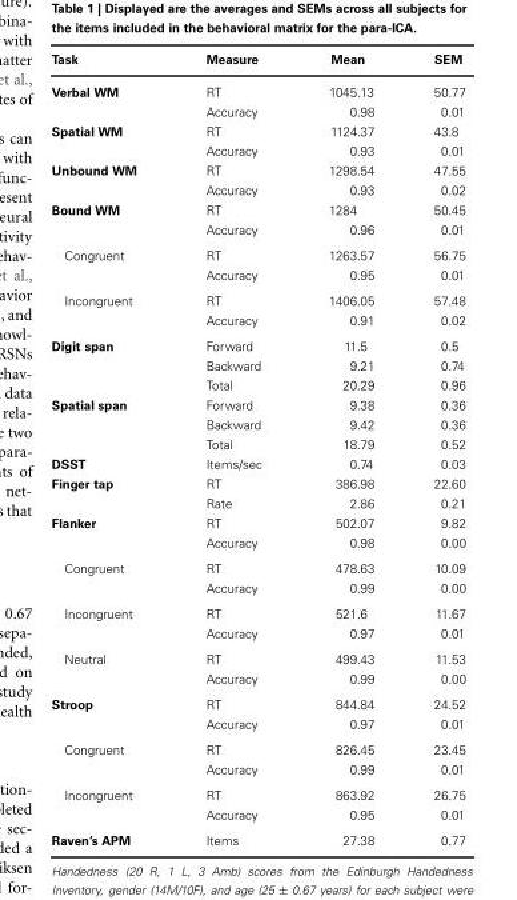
<table><thead><tr><td>Task</td><td>Measure</td><td>Mean</td><td>SEM</td></tr></thead><tbody><tr><td rowspan="2">Verbal WM</td><td>RT</td><td>1045.13</td><td>50.77</td></tr><tr><td>Accuracy</td><td>0.98</td><td>0.01</td></tr><tr><td rowspan="2">Spatial WM</td><td>RT</td><td>1124.37</td><td>43.8</td></tr><tr><td>Accuracy</td><td>0.93</td><td>0.01</td></tr><tr><td rowspan="2">Unbound WM</td><td>RT</td><td>1298.54</td><td>47.55</td></tr><tr><td>Accuracy</td><td>0.93</td><td>0.02</td></tr><tr><td rowspan="2">Bound WM</td><td>RT</td><td>1284</td><td>50.45</td></tr><tr><td>Accuracy</td><td>0.96</td><td>0.01</td></tr><tr><td rowspan="2">Congruent</td><td>RT</td><td>1263.57</td><td>56.75</td></tr><tr><td>Accuracy</td><td>0.95</td><td>0.01</td></tr><tr><td rowspan="2">Incongruent</td><td>RT</td><td>1406.05</td><td>57.48</td></tr><tr><td>Accuracy</td><td>0.91</td><td>0.02</td></tr><tr><td rowspan="3">Digit span</td><td>Forward</td><td>11.5</td><td>0.5</td></tr><tr><td>Backward</td><td>9.21</td><td>0.74</td></tr><tr><td>Total</td><td>20.29</td><td>0.96</td></tr><tr><td rowspan="3">Spatial span</td><td>Forward</td><td>9.38</td><td>0.36</td></tr><tr><td>Backward</td><td>9.42</td><td>0.36</td></tr><tr><td>Total</td><td>18.79</td><td>0.52</td></tr><tr><td>DSST</td><td>Items/sec</td><td>0.74</td><td>0.03</td></tr><tr><td rowspan="2">Finger tap</td><td>RT</td><td>386.98</td><td>22.60</td></tr><tr><td>Rate</td><td>2.86</td><td>0.21</td></tr><tr><td rowspan="2">Flanker</td><td>RT</td><td>502.07</td><td>9.82</td></tr><tr><td>Accuracy</td><td>0.98</td><td>0.00</td></tr><tr><td rowspan="2">Congruent</td><td>RT</td><td>478.63</td><td>10.09</td></tr><tr><td>Accuracy</td><td>0.99</td><td>0.00</td></tr><tr><td rowspan="2">Incongruent</td><td>RT</td><td>521.6</td><td>11.67</td></tr><tr><td>Accuracy</td><td>0.97</td><td>0.01</td></tr><tr><td rowspan="2">Neutral</td><td>RT</td><td>499.43</td><td>11.53</td></tr><tr><td>Accuracy</td><td>0.99</td><td>0.00</td></tr><tr><td rowspan="2">Stroop</td><td>RT</td><td>844.84</td><td>24.52</td></tr><tr><td>Accuracy</td><td>0.97</td><td>0.01</td></tr><tr><td rowspan="2">Congruent</td><td>RT</td><td>826.45</td><td>23.45</td></tr><tr><td>Accuracy</td><td>0.99</td><td>0.01</td></tr><tr><td rowspan="2">Incongruent</td><td>RT</td><td>863.92</td><td>26.75</td></tr><tr><td>Accuracy</td><td>0.95</td><td>0.01</td></tr><tr><td>Raven’s APM</td><td>Items</td><td>27.38</td><td>0.77</td></tr></tbody></table>